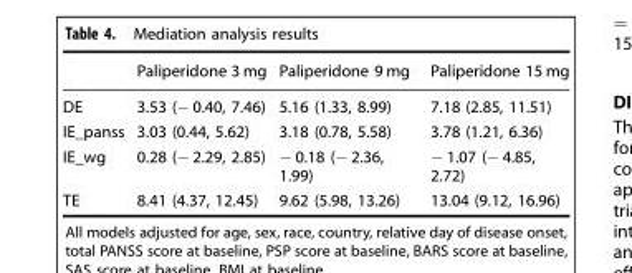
<table><thead><tr><td></td><td>Paliperidone 3 mg</td><td>Paliperidone 9 mg</td><td>Paliperidone 15 mg</td></tr></thead><tbody><tr><td>DE</td><td>3.53 (− 0.40, 7.46)</td><td>5.16 (1.33, 8.99)</td><td>7.18 (2.85, 11.51)</td></tr><tr><td>IE_panss</td><td>3.03 (0.44, 5.62)</td><td>3.18 (0.78, 5.58)</td><td>3.78 (1.21, 6.36)</td></tr><tr><td>IE_wg</td><td>0.28 (− 2.29, 2.85)</td><td>− 0.18 (− 2.36, 1.99)</td><td>− 1.07 (− 4.85, 2.72)</td></tr><tr><td>TE</td><td>8.41 (4.37, 12.45)</td><td>9.62 (5.98, 13.26)</td><td>13.04 (9.12, 16.96)</td></tr></tbody></table>